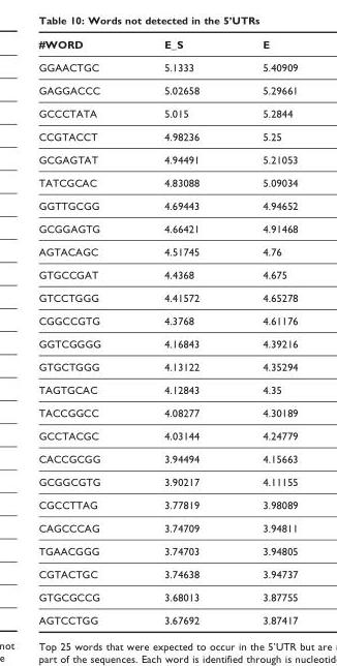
<table><thead><tr><td>#WORD</td><td>E_S</td><td>E</td></tr></thead><tbody><tr><td>GGAACTGC</td><td>5.1333</td><td>5.40909</td></tr><tr><td>GAGGACCC</td><td>5.02658</td><td>5.29661</td></tr><tr><td>GCCCTATA</td><td>5.015</td><td>5.2844</td></tr><tr><td>CCGTACCT</td><td>4.98236</td><td>5.25</td></tr><tr><td>GCGAGTAT</td><td>4.94491</td><td>5.21053</td></tr><tr><td>TATCGCAC</td><td>4.83088</td><td>5.09034</td></tr><tr><td>GGTTGCGG</td><td>4.69443</td><td>4.94652</td></tr><tr><td>GCGGAGTG</td><td>4.66421</td><td>4.91468</td></tr><tr><td>AGTACAGC</td><td>4.51745</td><td>4.76</td></tr><tr><td>GTGCCGAT</td><td>4.4368</td><td>4.675</td></tr><tr><td>GTCCTGGG</td><td>4.41572</td><td>4.65278</td></tr><tr><td>CGGCCGTG</td><td>4.3768</td><td>4.61176</td></tr><tr><td>GGTCGGGG</td><td>4.16843</td><td>4.39216</td></tr><tr><td>GTGCTGGG</td><td>4.13122</td><td>4.35294</td></tr><tr><td>TAGTGCAC</td><td>4.12843</td><td>4.35</td></tr><tr><td>TACCGGCC</td><td>4.08277</td><td>4.30189</td></tr><tr><td>GCCTACGC</td><td>4.03144</td><td>4.24779</td></tr><tr><td>CACCGCGG</td><td>3.94494</td><td>4.15663</td></tr><tr><td>GCGGCGTG</td><td>3.90217</td><td>4.11155</td></tr><tr><td>CGCCTTAG</td><td>3.77819</td><td>3.98089</td></tr><tr><td>CAGCCCAG</td><td>3.74709</td><td>3.94811</td></tr><tr><td>TGAACGGG</td><td>3.74703</td><td>3.94805</td></tr><tr><td>CGTACTGC</td><td>3.74638</td><td>3.94737</td></tr><tr><td>GTGCGCCG</td><td>3.68013</td><td>3.87755</td></tr><tr><td>AGTCCTGG</td><td>3.67692</td><td>3.87417</td></tr></tbody></table>